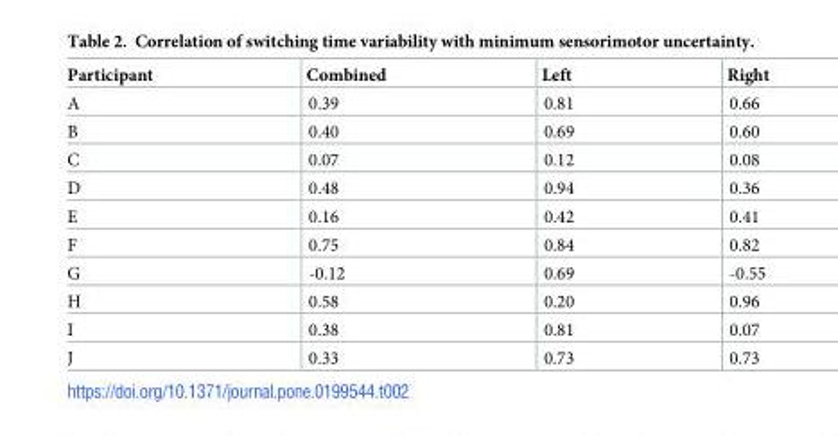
<table><thead><tr><td>Participant</td><td>Combined</td><td>Left</td><td>Right</td></tr></thead><tbody><tr><td>A</td><td>0.39</td><td>0.81</td><td>0.66</td></tr><tr><td>B</td><td>0.40</td><td>0.69</td><td>0.60</td></tr><tr><td>C</td><td>0.07</td><td>0.12</td><td>0.08</td></tr><tr><td>D</td><td>0.48</td><td>0.94</td><td>0.36</td></tr><tr><td>E</td><td>0.16</td><td>0.42</td><td>0.41</td></tr><tr><td>F</td><td>0.75</td><td>0.84</td><td>0.82</td></tr><tr><td>G</td><td>-0.12</td><td>0.69</td><td>-0.55</td></tr><tr><td>H</td><td>0.58</td><td>0.20</td><td>0.96</td></tr><tr><td>I</td><td>0.38</td><td>0.81</td><td>0.07</td></tr><tr><td>J</td><td>0.33</td><td>0.73</td><td>0.73</td></tr></tbody></table>